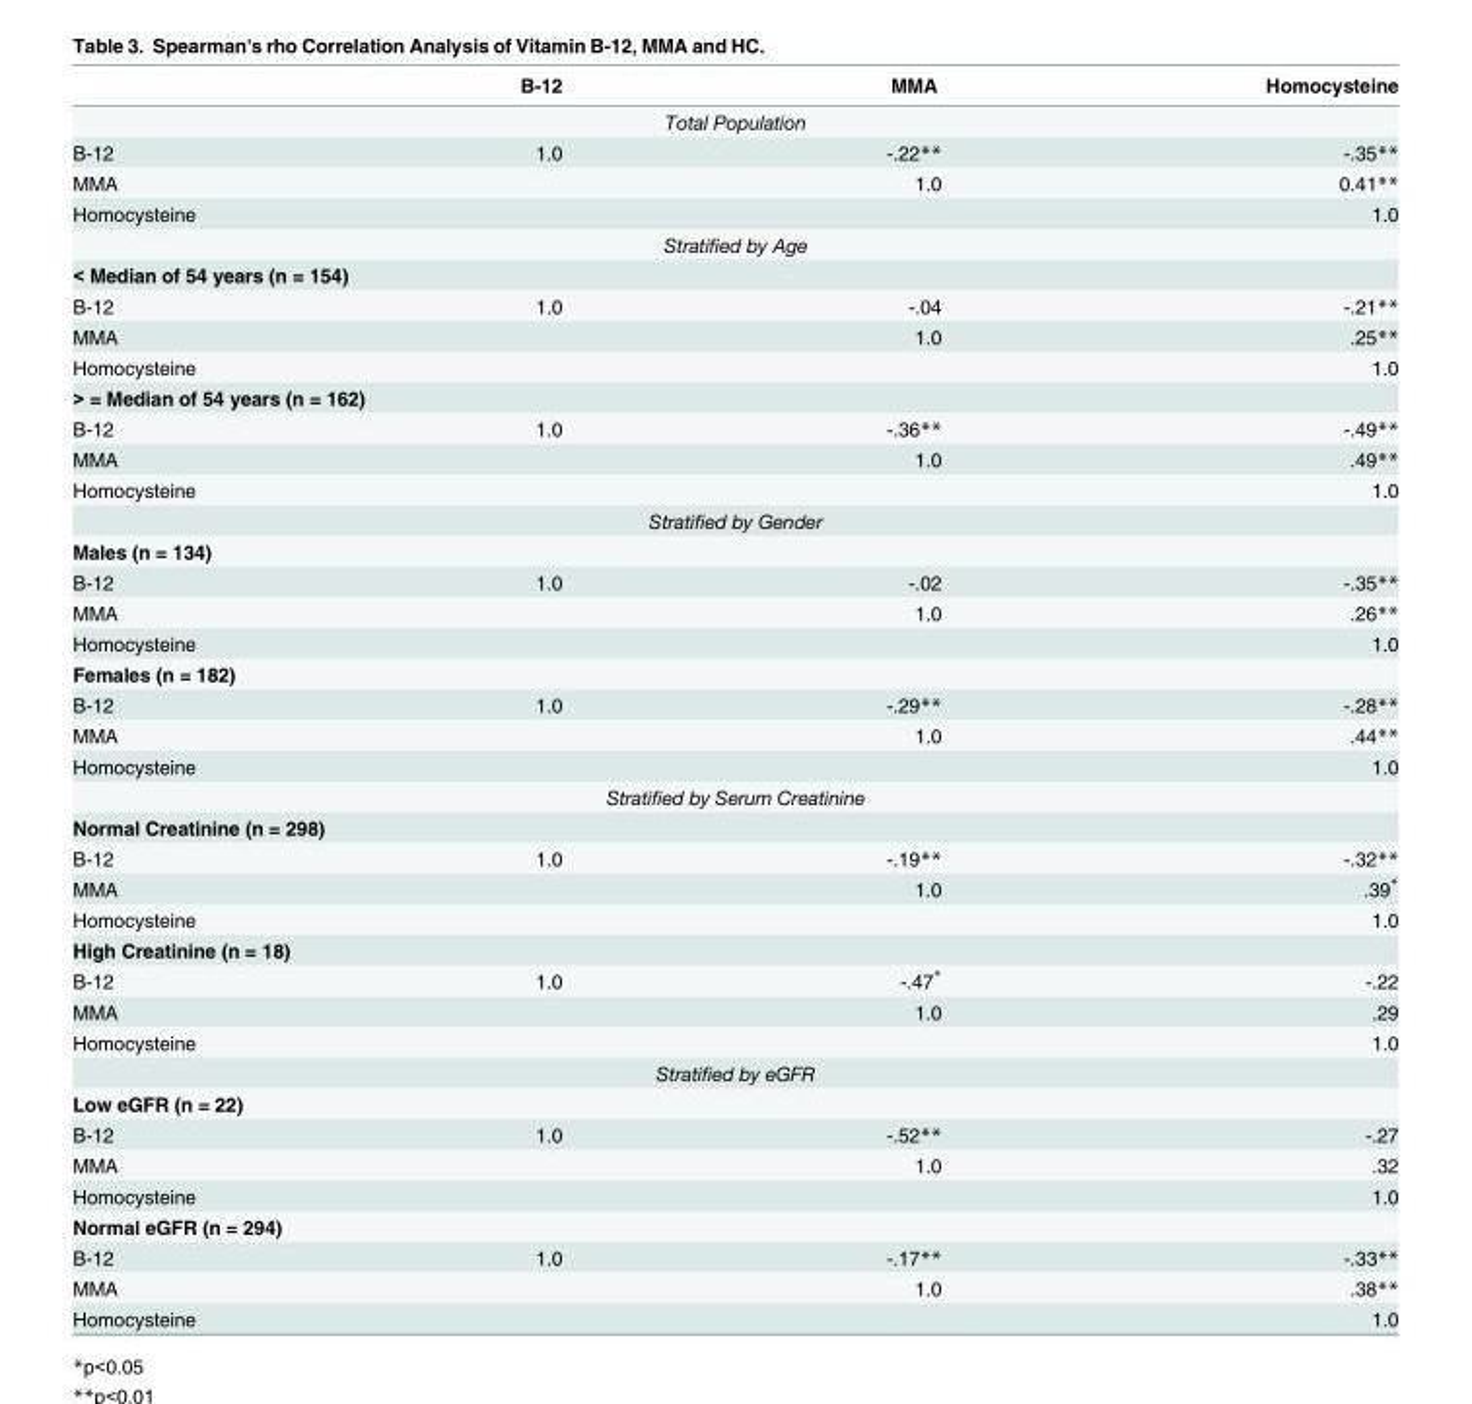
<table><thead><tr><td></td><td>B-12</td><td>MMA</td><td>Homocysteine</td></tr></thead><tbody><tr><td colspan="4">Total Population</td></tr><tr><td>B-12</td><td>1.0</td><td>-.22**</td><td>-.35**</td></tr><tr><td>MMA</td><td></td><td>1.0</td><td>0.41**</td></tr><tr><td>Homocysteine</td><td></td><td></td><td>1.0</td></tr><tr><td colspan="4">Stratified by Age</td></tr><tr><td colspan="4">&lt; Median of 54 years (n = 154)</td></tr><tr><td>B-12</td><td>1.0</td><td>-.04</td><td>-.21**</td></tr><tr><td>MMA</td><td></td><td>1.0</td><td>.25**</td></tr><tr><td>Homocysteine</td><td></td><td></td><td>1.0</td></tr><tr><td colspan="4">&gt; = Median of 54 years (n = 162)</td></tr><tr><td>B-12</td><td>1.0</td><td>-.36**</td><td>-.49**</td></tr><tr><td>MMA</td><td></td><td>1.0</td><td>.49**</td></tr><tr><td>Homocysteine</td><td></td><td></td><td>1.0</td></tr><tr><td colspan="4">Stratified by Gender</td></tr><tr><td colspan="4">Males (n = 134)</td></tr><tr><td>B-12</td><td>1.0</td><td>-.02</td><td>-.35**</td></tr><tr><td>MMA</td><td></td><td>1.0</td><td>.26**</td></tr><tr><td>Homocysteine</td><td></td><td></td><td>1.0</td></tr><tr><td colspan="4">Females (n = 182)</td></tr><tr><td>B-12</td><td>1.0</td><td>-.29**</td><td>-.28**</td></tr><tr><td>MMA</td><td></td><td>1.0</td><td>.44**</td></tr><tr><td>Homocysteine</td><td></td><td></td><td>1.0</td></tr><tr><td colspan="4">Stratified by Serum Creatinine</td></tr><tr><td colspan="4">Normal Creatinine (n = 298)</td></tr><tr><td>B-12</td><td>1.0</td><td>-.19**</td><td>-.32**</td></tr><tr><td>MMA</td><td></td><td>1.0</td><td>.39*</td></tr><tr><td>Homocysteine</td><td></td><td></td><td>1.0</td></tr><tr><td colspan="4">High Creatinine (n = 18)</td></tr><tr><td>B-12</td><td>1.0</td><td>-.47*</td><td>-.22</td></tr><tr><td>MMA</td><td></td><td>1.0</td><td>.29</td></tr><tr><td>Homocysteine</td><td></td><td></td><td>1.0</td></tr><tr><td colspan="4">Stratified by eGFR</td></tr><tr><td colspan="4">Low eGFR (n = 22)</td></tr><tr><td>B-12</td><td>1.0</td><td>-.52**</td><td>-.27</td></tr><tr><td>MMA</td><td></td><td>1.0</td><td>.32</td></tr><tr><td>Homocysteine</td><td></td><td></td><td>1.0</td></tr><tr><td colspan="4">Normal eGFR (n = 294)</td></tr><tr><td>B-12</td><td>1.0</td><td>-.17**</td><td>-.33**</td></tr><tr><td>MMA</td><td></td><td>1.0</td><td>.38**</td></tr><tr><td>Homocysteine</td><td></td><td></td><td>1.0</td></tr></tbody></table>